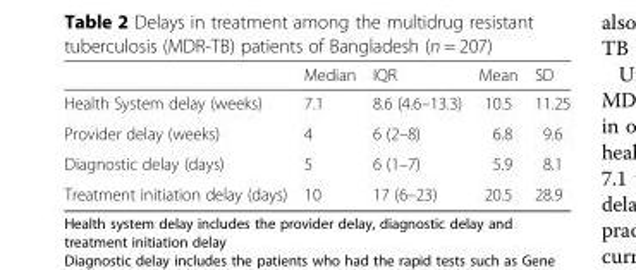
<table><thead><tr><td></td><td>Median</td><td>IQR</td><td>Mean</td><td>SD</td></tr></thead><tbody><tr><td>Health System delay (weeks)</td><td>7.1</td><td>8.6 (4.6–13.3)</td><td>10.5</td><td>11.25</td></tr><tr><td>Provider delay (weeks)</td><td>4</td><td>6 (2–8)</td><td>6.8</td><td>9.6</td></tr><tr><td>Diagnostic delay (days)</td><td>5</td><td>6 (1–7)</td><td>5.9</td><td>8.1</td></tr><tr><td>Treatment initiation delay (days)</td><td>10</td><td>17 (6–23)</td><td>20.5</td><td>28.9</td></tr></tbody></table>